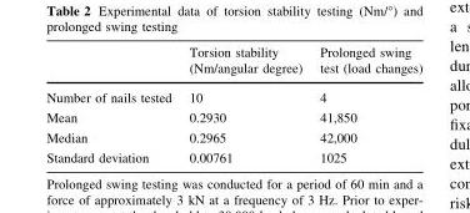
<table><thead><tr><td></td><td>Torsion stability (Nm/angular degree)</td><td>Prolonged swing test (load changes)</td></tr></thead><tbody><tr><td>Number of nails tested</td><td>10</td><td>4</td></tr><tr><td>Mean</td><td>0.2930</td><td>41,850</td></tr><tr><td>Median</td><td>0.2965</td><td>42,000</td></tr><tr><td>Standard deviation</td><td>0.00761</td><td>1025</td></tr></tbody></table>